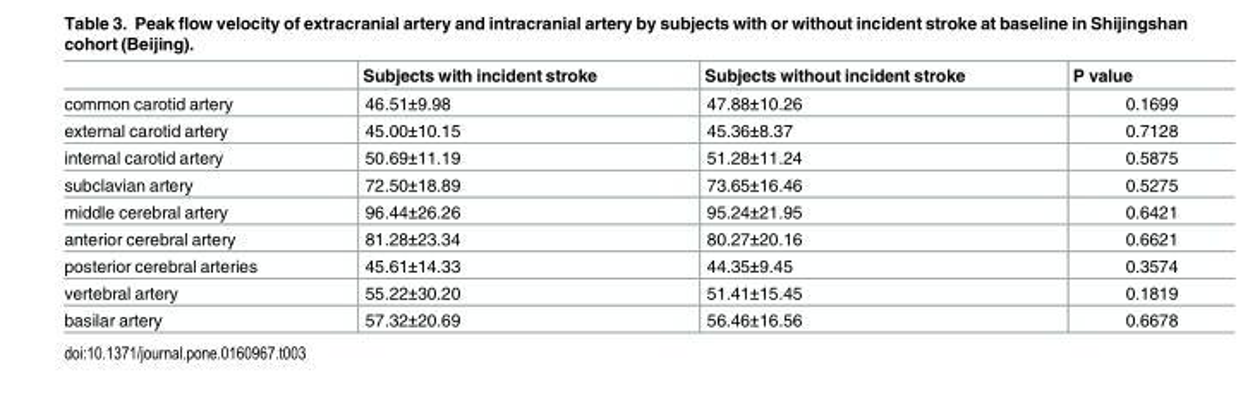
<table><thead><tr><td></td><td>Subjects with incident stroke</td><td>Subjects without incident stroke</td><td>P value</td></tr></thead><tbody><tr><td>common carotid artery</td><td>46.51±9.98</td><td>47.88±10.26</td><td>0.1699</td></tr><tr><td>external carotid artery</td><td>45.00±10.15</td><td>45.36±8.37</td><td>0.7128</td></tr><tr><td>internal carotid artery</td><td>50.69±11.19</td><td>51.28±11.24</td><td>0.5875</td></tr><tr><td>subclavian artery</td><td>72.50±18.89</td><td>73.65±16.46</td><td>0.5275</td></tr><tr><td>middle cerebral artery</td><td>96.44±26.26</td><td>95.24±21.95</td><td>0.6421</td></tr><tr><td>anterior cerebral artery</td><td>81.28±23.34</td><td>80.27±20.16</td><td>0.6621</td></tr><tr><td>posterior cerebral arteries</td><td>45.61±14.33</td><td>44.35±9.45</td><td>0.3574</td></tr><tr><td>vertebral artery</td><td>55.22±30.20</td><td>51.41±15.45</td><td>0.1819</td></tr><tr><td>basilar artery</td><td>57.32±20.69</td><td>56.46±16.56</td><td>0.6678</td></tr></tbody></table>